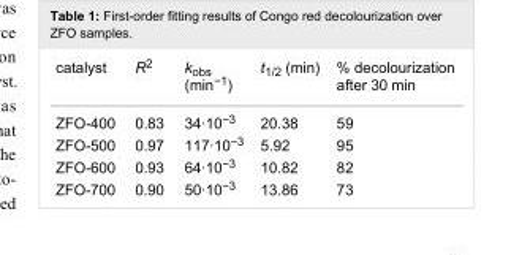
<table><tbody><tr><td>catalyst</td><td>R<sup>2</sup></td><td>k<sub>obs</sub> (min<sup>−1</sup>)</td><td>t<sub>1/2</sub> (min)</td><td>% decolourization after 30 min</td></tr><tr><td>ZFO-400</td><td>0.83</td><td>34·10<sup>−3</sup></td><td>20.38</td><td>59</td></tr><tr><td>ZFO-500</td><td>0.97</td><td>117·10<sup>−3</sup></td><td>5.92</td><td>95</td></tr><tr><td>ZFO-600</td><td>0.93</td><td>64·10<sup>−3</sup></td><td>10.82</td><td>82</td></tr><tr><td>ZFO-700</td><td>0.90</td><td>50·10<sup>−3</sup></td><td>13.86</td><td>73</td></tr></tbody></table>